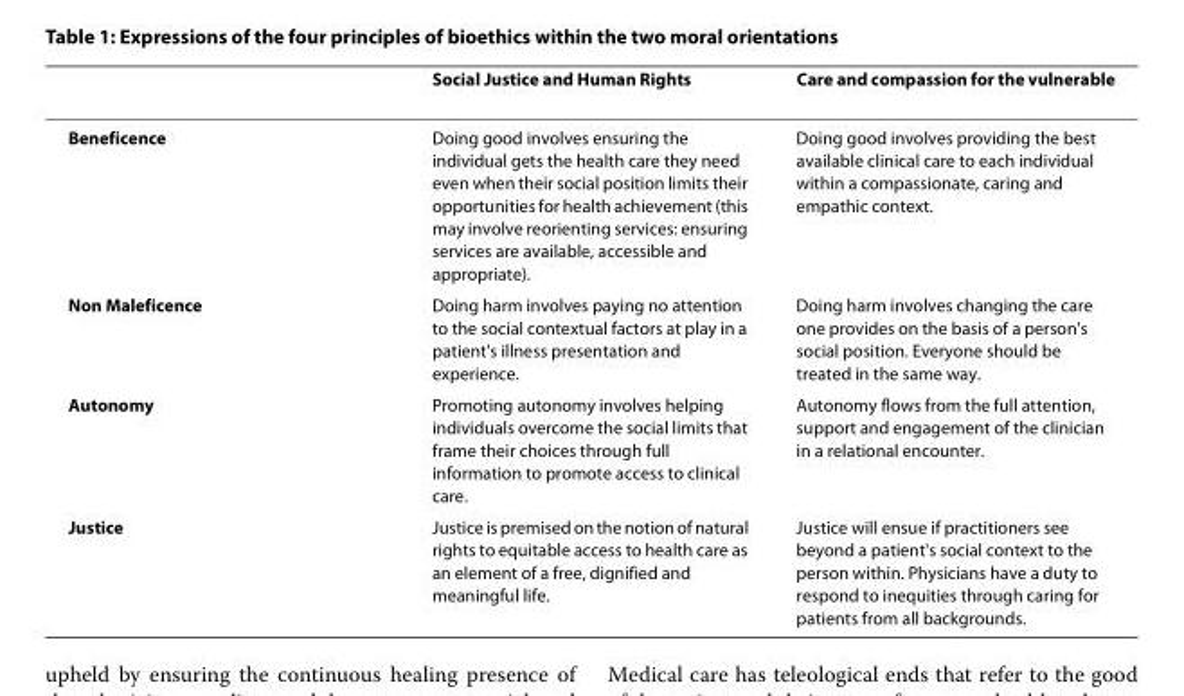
<table><thead><tr><td></td><td>Social Justice and Human Rights</td><td>Care and compassion for the vulnerable</td></tr></thead><tbody><tr><td>Beneficence</td><td>Doing good involves ensuring the individual gets the health care they need even when their social position limits their opportunities for health achievement (this may involve reorienting services: ensuring services are available, accessible and appropriate).</td><td>Doing good involves providing the best available clinical care to each individual within a compassionate, caring and empathic context.</td></tr><tr><td>Non Maleficence</td><td>Doing harm involves paying no attention to the social contextual factors at play in a patient&#x27;s illness presentation and experience.</td><td>Doing harm involves changing the care one provides on the basis of a person&#x27;s social position. Everyone should be treated in the same way.</td></tr><tr><td>Autonomy</td><td>Promoting autonomy involves helping individuals overcome the social limits that frame their choices through full information to promote access to clinical care.</td><td>Autonomy flows from the full attention, support and engagement of the clinician in a relational encounter.</td></tr><tr><td>Justice</td><td>Justice is premised on the notion of natural rights to equitable access to health care as an element of a free, dignified and meaningful life.</td><td>Justice will ensue if practitioners see beyond a patient&#x27;s social context to the person within. Physicians have a duty to respond to inequities through caring for patients from all backgrounds.</td></tr></tbody></table>